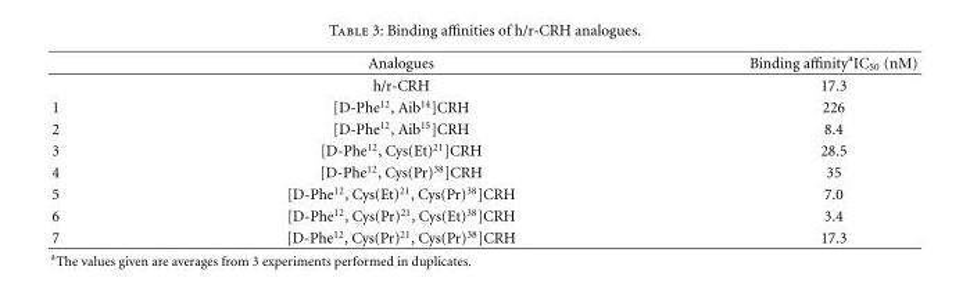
<table><thead><tr><td></td><td>Analogues</td><td>Binding affinity<sup>a</sup>IC<sub>50</sub> (nM)</td></tr></thead><tbody><tr><td></td><td>h/r-CRH</td><td>17.3</td></tr><tr><td>1</td><td>[D-Phe<sup>12</sup>, Aib<sup>14</sup>]CRH</td><td>226</td></tr><tr><td>2</td><td>[D-Phe<sup>12</sup>, Aib<sup>15</sup>]CRH</td><td>8.4</td></tr><tr><td>3</td><td>[D-Phe<sup>12</sup>, Cys(Et)<sup>21</sup>]CRH</td><td>28.5</td></tr><tr><td>4</td><td>[D-Phe<sup>12</sup>, Cys(Pr)<sup>38</sup>]CRH</td><td>35</td></tr><tr><td>5</td><td>[D-Phe<sup>12</sup>, Cys(Et)<sup>21</sup>, Cys(Pr)<sup>38</sup>]CRH</td><td>7.0</td></tr><tr><td>6</td><td>[D-Phe<sup>12</sup>, Cys(Pr)<sup>21</sup>, Cys(Et)<sup>38</sup>]CRH</td><td>3.4</td></tr><tr><td>7</td><td>[D-Phe<sup>12</sup>, Cys(Pr)<sup>21</sup>, Cys(Pr)<sup>38</sup>]CRH</td><td>17.3</td></tr></tbody></table>